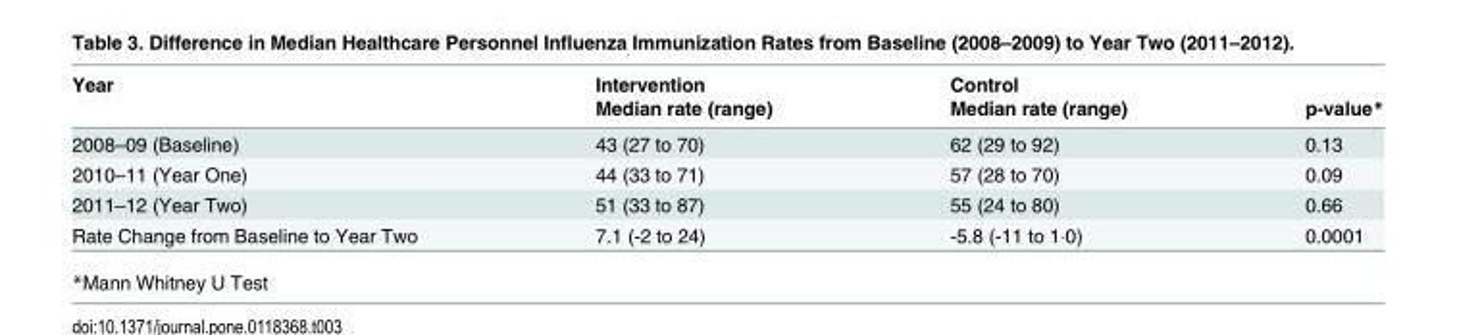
<table><thead><tr><td rowspan="2">Year</td><td rowspan="2">Intervention Median rate (range)</td><td rowspan="2">Control Median rate (range)</td><td rowspan="2">p-value*</td></tr><tr></tr></thead><tbody><tr><td>2008–09 (Baseline)</td><td>43 (27 to 70)</td><td>62 (29 to 92)</td><td>0.13</td></tr><tr><td>2010–11 (Year One)</td><td>44 (33 to 71)</td><td>57 (28 to 70)</td><td>0.09</td></tr><tr><td>2011–12 (Year Two)</td><td>51 (33 to 87)</td><td>55 (24 to 80)</td><td>0.66</td></tr><tr><td>Rate Change from Baseline to Year Two</td><td>7.1 (-2 to 24)</td><td>-5.8 (-11 to 1·0)</td><td>0.0001</td></tr></tbody></table>